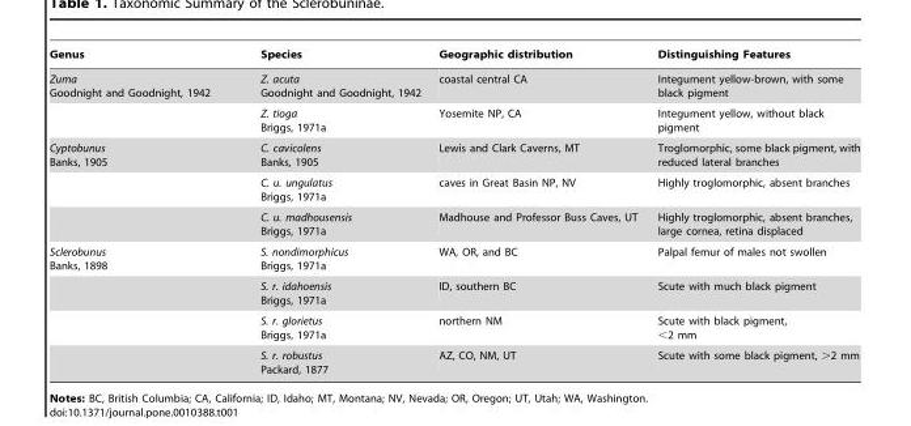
<table><thead><tr><td>Genus</td><td>Species</td><td>Geographic distribution</td><td>Distinguishing Features</td></tr></thead><tbody><tr><td rowspan="2">Zuma Goodnight and Goodnight, 1942</td><td>Z. acuta Goodnight and Goodnight, 1942</td><td>coastal central CA</td><td>Integument yellow-brown, with some black pigment</td></tr><tr><td>Z. tioga Briggs, 1971a</td><td>Yosemite NP, CA</td><td>Integument yellow, without black pigment</td></tr><tr><td rowspan="3">Cyptobunus Banks, 1905</td><td>C. cavicolens Banks, 1905</td><td>Lewis and Clark Caverns, MT</td><td>Troglomorphic, some black pigment, with reduced lateral branches</td></tr><tr><td>C. u. ungulatus Briggs, 1971a</td><td>caves in Great Basin NP, NV</td><td>Highly troglomorphic, absent branches</td></tr><tr><td>C. u. madhousensis Briggs, 1971a</td><td>Madhouse and Professor Buss Caves, UT</td><td>Highly troglomorphic, absent branches, large cornea, retina displaced</td></tr><tr><td rowspan="4">Sclerobunus Banks, 1898</td><td>S. nondimorphicus Briggs, 1971a</td><td>WA, OR, and BC</td><td>Palpal femur of males not swollen</td></tr><tr><td>S. r. idahoensis Briggs, 1971a</td><td>ID, southern BC</td><td>Scute with much black pigment</td></tr><tr><td>S. r. glorietus Briggs, 1971a</td><td>northern NM</td><td>Scute with black pigment, &lt;2 mm</td></tr><tr><td>S. r. robustus Packard, 1877</td><td>AZ, CO, NM, UT</td><td>Scute with some black pigment, &gt;2 mm</td></tr></tbody></table>